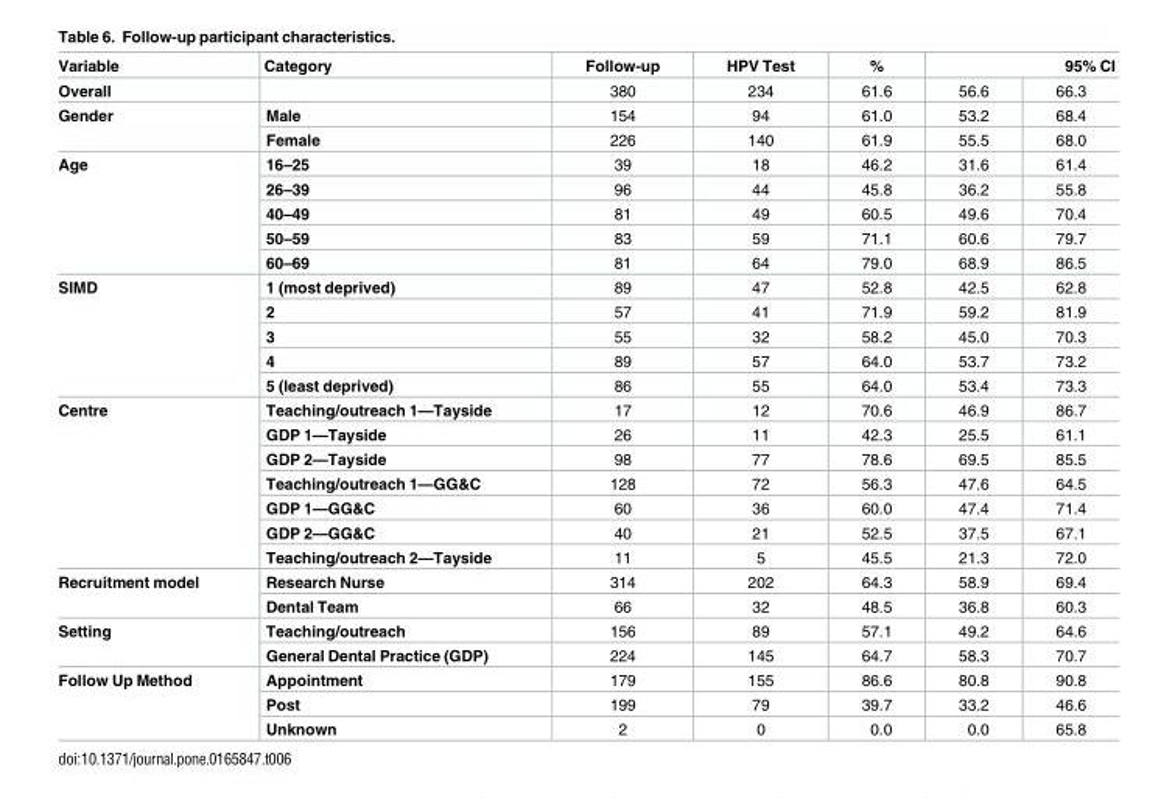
<table><thead><tr><td rowspan="2">Variable Overall</td><td rowspan="2">Category</td><td rowspan="2">Follow-up 380</td><td rowspan="2">HPV Test 234</td><td rowspan="2">% 61.6</td><td colspan="2">95% CI</td></tr><tr><td>56.6</td><td>66.3</td></tr></thead><tbody><tr><td rowspan="2">Gender</td><td>Male</td><td>154</td><td>94</td><td>61.0</td><td>53.2</td><td>68.4</td></tr><tr><td>Female</td><td>226</td><td>140</td><td>61.9</td><td>55.5</td><td>68.0</td></tr><tr><td rowspan="5">Age</td><td>16–25</td><td>39</td><td>18</td><td>46.2</td><td>31.6</td><td>61.4</td></tr><tr><td>26–39</td><td>96</td><td>44</td><td>45.8</td><td>36.2</td><td>55.8</td></tr><tr><td>40–49</td><td>81</td><td>49</td><td>60.5</td><td>49.6</td><td>70.4</td></tr><tr><td>50–59</td><td>83</td><td>59</td><td>71.1</td><td>60.6</td><td>79.7</td></tr><tr><td>60–69</td><td>81</td><td>64</td><td>79.0</td><td>68.9</td><td>86.5</td></tr><tr><td rowspan="5">SIMD</td><td>1 (most deprived)</td><td>89</td><td>47</td><td>52.8</td><td>42.5</td><td>62.8</td></tr><tr><td>2</td><td>57</td><td>41</td><td>71.9</td><td>59.2</td><td>81.9</td></tr><tr><td>3</td><td>55</td><td>32</td><td>58.2</td><td>45.0</td><td>70.3</td></tr><tr><td>4</td><td>89</td><td>57</td><td>64.0</td><td>53.7</td><td>73.2</td></tr><tr><td>5 (least deprived)</td><td>86</td><td>55</td><td>64.0</td><td>53.4</td><td>73.3</td></tr><tr><td rowspan="7">Centre</td><td>Teaching/outreach 1—Tayside</td><td>17</td><td>12</td><td>70.6</td><td>46.9</td><td>86.7</td></tr><tr><td>GDP 1—Tayside</td><td>26</td><td>11</td><td>42.3</td><td>25.5</td><td>61.1</td></tr><tr><td>GDP 2—Tayside</td><td>98</td><td>77</td><td>78.6</td><td>69.5</td><td>85.5</td></tr><tr><td>Teaching/outreach 1—GG&amp;C</td><td>128</td><td>72</td><td>56.3</td><td>47.6</td><td>64.5</td></tr><tr><td>GDP 1—GG&amp;C</td><td>60</td><td>36</td><td>60.0</td><td>47.4</td><td>71.4</td></tr><tr><td>GDP 2—GG&amp;C</td><td>40</td><td>21</td><td>52.5</td><td>37.5</td><td>67.1</td></tr><tr><td>Teaching/outreach 2—Tayside</td><td>11</td><td>5</td><td>45.5</td><td>21.3</td><td>72.0</td></tr><tr><td rowspan="2">Recruitment model</td><td>Research Nurse</td><td>314</td><td>202</td><td>64.3</td><td>58.9</td><td>69.4</td></tr><tr><td>Dental Team</td><td>66</td><td>32</td><td>48.5</td><td>36.8</td><td>60.3</td></tr><tr><td rowspan="2">Setting</td><td>Teaching/outreach</td><td>156</td><td>89</td><td>57.1</td><td>49.2</td><td>64.6</td></tr><tr><td>General Dental Practice (GDP)</td><td>224</td><td>145</td><td>64.7</td><td>58.3</td><td>70.7</td></tr><tr><td rowspan="3">Follow Up Method</td><td>Appointment</td><td>179</td><td>155</td><td>86.6</td><td>80.8</td><td>90.8</td></tr><tr><td>Post</td><td>199</td><td>79</td><td>39.7</td><td>33.2</td><td>46.6</td></tr><tr><td>Unknown</td><td>2</td><td>0</td><td>0.0</td><td>0.0</td><td>65.8</td></tr></tbody></table>